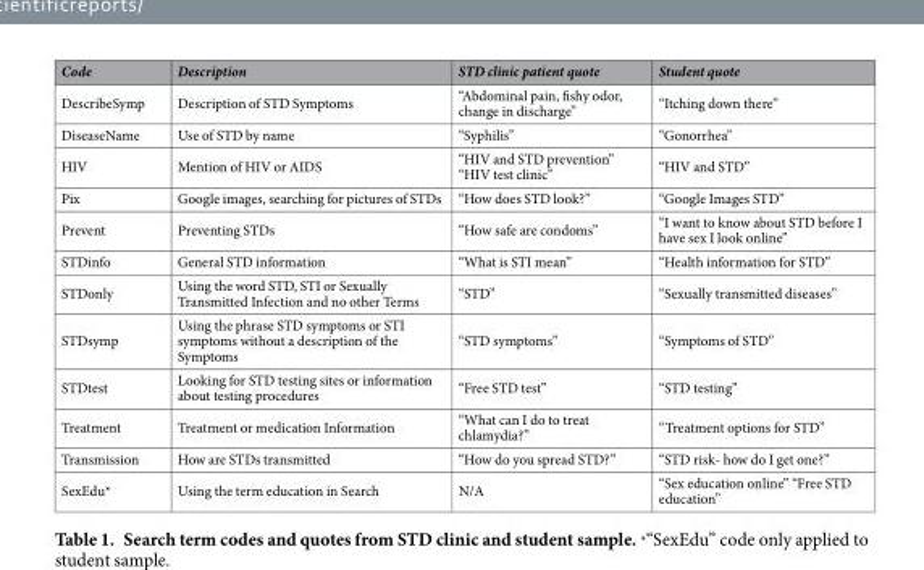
<table><thead><tr><td>Code</td><td>Description</td><td>STD clinic patient quote</td><td>Student quote</td></tr></thead><tbody><tr><td>DescribeSymp</td><td>Description of STD Symptoms</td><td>“Abdominal pain, fishy odor, change in discharge”</td><td>“Itching down there”</td></tr><tr><td>DiseaseName</td><td>Use of STD by name</td><td>“Syphilis”</td><td>“Gonorrhea”</td></tr><tr><td>HIV</td><td>Mention of HIV or AIDS</td><td>“HIV and STD prevention” “HIV test clinic”</td><td>“HIV and STD”</td></tr><tr><td>Pix</td><td>Google images, searching for pictures of STDs</td><td>“How does STD look?”</td><td>“Google Images STD”</td></tr><tr><td>Prevent</td><td>Preventing STDs</td><td>“How safe are condoms”</td><td>“I want to know about STD before I have sex I look online”</td></tr><tr><td>STDinfo</td><td>General STD information</td><td>“What is STI mean”</td><td>“Health information for STD”</td></tr><tr><td>STDonly</td><td>Using the word STD, STI or Sexually Transmitted Infection and no other Terms</td><td>“STD”</td><td>“Sexually transmitted diseases”</td></tr><tr><td>STDsymp</td><td>Using the phrase STD symptoms or STI symptoms without a description of the Symptoms</td><td>“STD symptoms”</td><td>“Symptoms of STD”</td></tr><tr><td>STDtest</td><td>Looking for STD testing sites or information about testing procedures</td><td>“Free STD test”</td><td>“STD testing”</td></tr><tr><td>Treatment</td><td>Treatment or medication Information</td><td>“What can I do to treat chlamydia?”</td><td>“Treatment options for STD”</td></tr><tr><td>Transmission</td><td>How are STDs transmitted</td><td>“How do you spread STD?”</td><td>“STD risk- how do I get one?”</td></tr><tr><td>SexEdu*</td><td>Using the term education in Search</td><td>N/A</td><td>“Sex education online” “Free STD education”</td></tr></tbody></table>